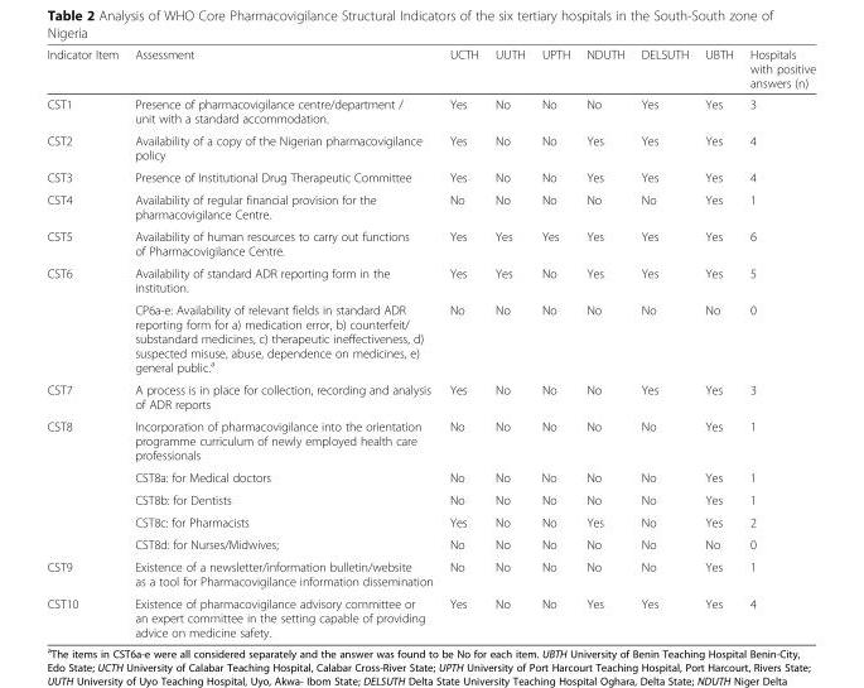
<table><thead><tr><td>Indicator Item</td><td>Assessment</td><td>UCTH</td><td>UUTH</td><td>UPTH</td><td>NDUTH</td><td>DELSUTH</td><td>UBTH</td><td>Hospitals with positive answers (n)</td></tr></thead><tbody><tr><td>CST1</td><td>Presence of pharmacovigilance centre/department / unit with a standard accommodation.</td><td>Yes</td><td>No</td><td>No</td><td>No</td><td>Yes</td><td>Yes</td><td>3</td></tr><tr><td>CST2</td><td>Availability of a copy of the Nigerian pharmacovigilance policy</td><td>Yes</td><td>No</td><td>No</td><td>Yes</td><td>Yes</td><td>Yes</td><td>4</td></tr><tr><td>CST3</td><td>Presence of Institutional Drug Therapeutic Committee</td><td>Yes</td><td>No</td><td>No</td><td>Yes</td><td>Yes</td><td>Yes</td><td>4</td></tr><tr><td>CST4</td><td>Availability of regular financial provision for the pharmacovigilance Centre.</td><td>No</td><td>No</td><td>No</td><td>No</td><td>No</td><td>Yes</td><td>1</td></tr><tr><td>CST5</td><td>Availability of human resources to carry out functions of Pharmacovigilance Centre.</td><td>Yes</td><td>Yes</td><td>Yes</td><td>Yes</td><td>Yes</td><td>Yes</td><td>6</td></tr><tr><td rowspan="2">CST6</td><td>Availability of standard ADR reporting form in the institution.</td><td>Yes</td><td>Yes</td><td>No</td><td>Yes</td><td>Yes</td><td>Yes</td><td>5</td></tr><tr><td>CP6a-e: Availability of relevant fields in standard ADR reporting form for a) medication error, b) counterfeit/ substandard medicines, c) therapeutic ineffectiveness, d) suspected misuse, abuse, dependence on medicines, e) general public.<sup>a</sup></td><td>No</td><td>No</td><td>No</td><td>No</td><td>No</td><td>No</td><td>0</td></tr><tr><td>CST7</td><td>A process is in place for collection, recording and analysis of ADR reports</td><td>Yes</td><td>No</td><td>No</td><td>No</td><td>Yes</td><td>Yes</td><td>3</td></tr><tr><td rowspan="5">CST8</td><td>Incorporation of pharmacovigilance into the orientation programme curriculum of newly employed health care professionals</td><td>No</td><td>No</td><td>No</td><td>No</td><td>No</td><td>Yes</td><td>1</td></tr><tr><td>CST8a: for Medical doctors</td><td>No</td><td>No</td><td>No</td><td>No</td><td>No</td><td>Yes</td><td>1</td></tr><tr><td>CST8b: for Dentists</td><td>No</td><td>No</td><td>No</td><td>No</td><td>No</td><td>Yes</td><td>1</td></tr><tr><td>CST8c: for Pharmacists</td><td>Yes</td><td>No</td><td>No</td><td>Yes</td><td>No</td><td>Yes</td><td>2</td></tr><tr><td>CST8d: for Nurses/Midwives;</td><td>No</td><td>No</td><td>No</td><td>No</td><td>No</td><td>No</td><td>0</td></tr><tr><td>CST9</td><td>Existence of a newsletter/information bulletin/website as a tool for Pharmacovigilance information dissemination</td><td>No</td><td>No</td><td>No</td><td>No</td><td>No</td><td>Yes</td><td>1</td></tr><tr><td>CST10</td><td>Existence of pharmacovigilance advisory committee or an expert committee in the setting capable of providing advice on medicine safety.</td><td>Yes</td><td>No</td><td>No</td><td>Yes</td><td>Yes</td><td>Yes</td><td>4</td></tr></tbody></table>